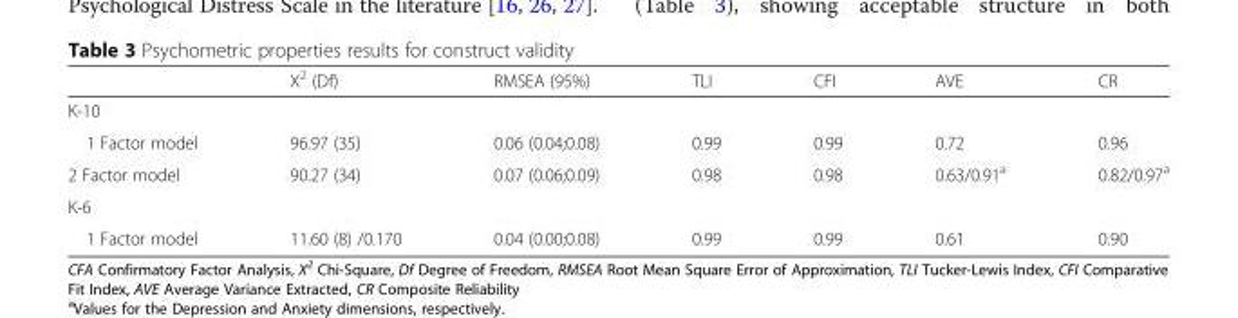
<table><thead><tr><td></td><td>X<sup>2</sup> (Df)</td><td>RMSEA (95%)</td><td>TLI</td><td>CFI</td><td>AVE</td><td>CR</td></tr></thead><tbody><tr><td colspan="7">K-10</td></tr><tr><td>1 Factor model</td><td>96.97 (35)</td><td>0.06 (0.04;0.08)</td><td>0.99</td><td>0.99</td><td>0.72</td><td>0.96</td></tr><tr><td>2 Factor model</td><td>90.27 (34)</td><td>0.07 (0.06;0.09)</td><td>0.98</td><td>0.98</td><td>0.63/0.91<sup>a</sup></td><td>0.82/0.97<sup>a</sup></td></tr><tr><td colspan="7">K-6</td></tr><tr><td>1 Factor model</td><td>11.60 (8) /0.170</td><td>0.04 (0.00;0.08)</td><td>0.99</td><td>0.99</td><td>0.61</td><td>0.90</td></tr></tbody></table>